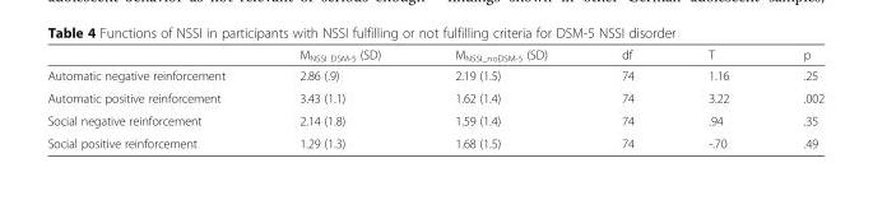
<table><thead><tr><td></td><td>M<sub>NSSI DSM-5</sub> (SD)</td><td>M<sub>NSSI_noDSM-5</sub> (SD)</td><td>df</td><td>T</td><td>p</td></tr></thead><tbody><tr><td>Automatic negative reinforcement</td><td>2.86 (.9)</td><td>2.19 (1.5)</td><td>74</td><td>1.16</td><td>.25</td></tr><tr><td>Automatic positive reinforcement</td><td>3.43 (1.1)</td><td>1.62 (1.4)</td><td>74</td><td>3.22</td><td>.002</td></tr><tr><td>Social negative reinforcement</td><td>2.14 (1.8)</td><td>1.59 (1.4)</td><td>74</td><td>.94</td><td>.35</td></tr><tr><td>Social positive reinforcement</td><td>1.29 (1.3)</td><td>1.68 (1.5)</td><td>74</td><td>-.70</td><td>.49</td></tr></tbody></table>